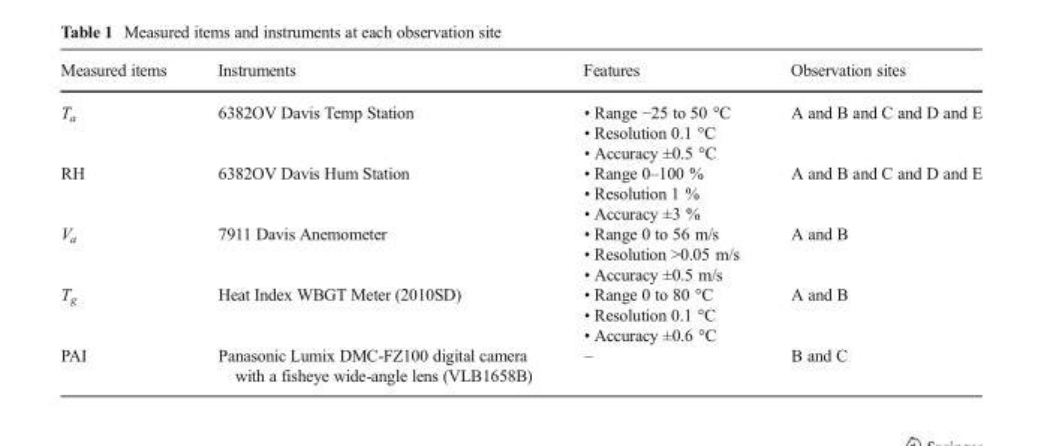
<table><thead><tr><td>Measured items</td><td>Instruments</td><td>Features</td><td>Observation sites</td></tr></thead><tbody><tr><td>T<sub>a</sub></td><td>6382OV Davis Temp Station</td><td>• Range −25 to 50 °C • Resolution 0.1 °C • Accuracy ±0.5 °C</td><td>A and B and C and D and E</td></tr><tr><td>RH</td><td>6382OV Davis Hum Station</td><td>• Range 0–100 % • Resolution 1 % • Accuracy ±3 %</td><td>A and B and C and D and E</td></tr><tr><td>V<sub>a</sub></td><td>7911 Davis Anemometer</td><td>• Range 0 to 56 m/s • Resolution &gt;0.05 m/s • Accuracy ±0.5 m/s</td><td>A and B</td></tr><tr><td>T<sub>g</sub></td><td>Heat Index WBGT Meter (2010SD)</td><td>• Range 0 to 80 °C • Resolution 0.1 °C • Accuracy ±0.6 °C</td><td>A and B</td></tr><tr><td>PAI</td><td>Panasonic Lumix DMC-FZ100 digital camera with a fisheye wide-angle lens (VLB1658B)</td><td>–</td><td>B and C</td></tr></tbody></table>